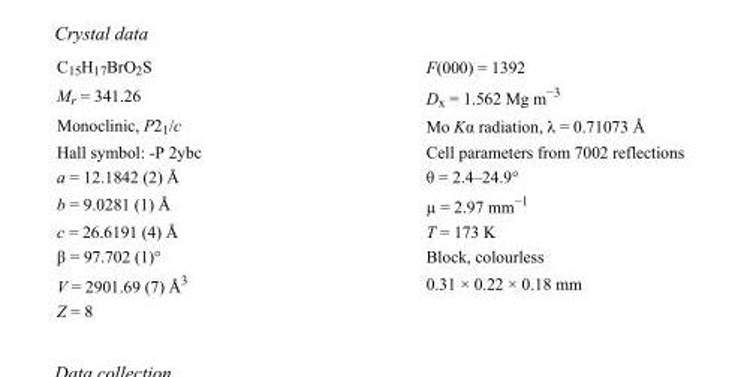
<table><tbody><tr><td>C<sub>15</sub>H<sub>17</sub>BrO<sub>2</sub>S</td><td>F(000) = 1392</td></tr><tr><td>M<sub>r</sub> = 341.26</td><td>D<sub>x</sub> = 1.562 Mg m<sup>−3</sup></td></tr><tr><td>Monoclinic, P2<sub>1</sub>/c</td><td>Mo Kα radiation, λ = 0.71073 Å</td></tr><tr><td>Hall symbol: -P 2ybc</td><td>Cell parameters from 7002 reflections</td></tr><tr><td>a = 12.1842 (2) Å</td><td>θ = 2.4–24.9°</td></tr><tr><td>b = 9.0281 (1) Å</td><td>µ = 2.97 mm<sup>−1</sup></td></tr><tr><td>c = 26.6191 (4) Å</td><td>T = 173 K</td></tr><tr><td>β = 97.702 (1)°</td><td>Block, colourless</td></tr><tr><td>V = 2901.69 (7) Å<sup>3</sup></td><td>0.31 × 0.22 × 0.18 mm</td></tr><tr><td>Z = 8</td><td></td></tr></tbody></table>